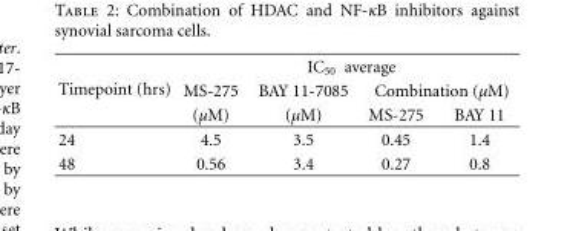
<table><thead><tr><td rowspan="3">Timepoint (hrs)</td><td colspan="4">IC<sub>50</sub> average</td></tr><tr><td rowspan="2">MS-275 (μM)</td><td rowspan="2">BAY 11-7085 (μM)</td><td colspan="2">Combination (μM)</td></tr><tr><td>MS-275</td><td>BAY 11</td></tr></thead><tbody><tr><td>24</td><td>4.5</td><td>3.5</td><td>0.45</td><td>1.4</td></tr><tr><td>48</td><td>0.56</td><td>3.4</td><td>0.27</td><td>0.8</td></tr></tbody></table>